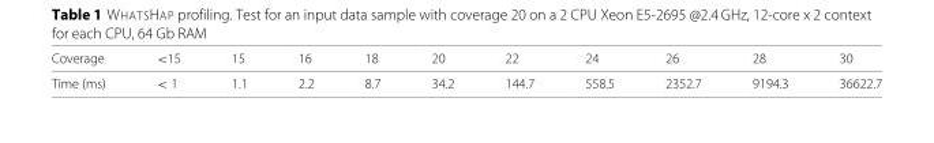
<table><thead><tr><td>Coverage</td><td>&lt;15</td><td>15</td><td>16</td><td>18</td><td>20</td><td>22</td><td>24</td><td>26</td><td>28</td><td>30</td></tr></thead><tbody><tr><td>Time (ms)</td><td>&lt; 1</td><td>1.1</td><td>2.2</td><td>8.7</td><td>34.2</td><td>144.7</td><td>558.5</td><td>2352.7</td><td>9194.3</td><td>36622.7</td></tr></tbody></table>